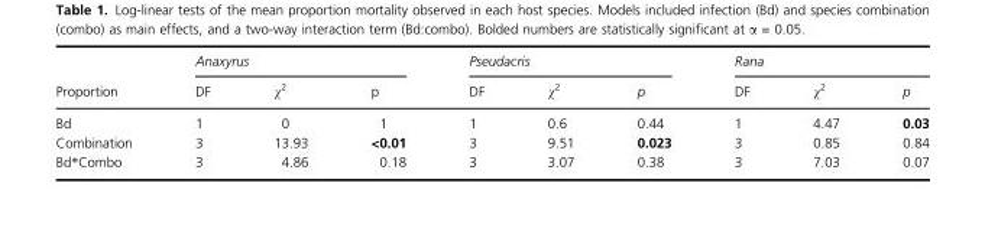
<table><thead><tr><td rowspan="2">Proportion</td><td colspan="3">Anaxyrus</td><td colspan="3">Pseudacris</td><td colspan="3">Rana</td></tr><tr><td>DF</td><td>χ<sup>2</sup></td><td>p</td><td>DF</td><td>χ<sup>2</sup></td><td>p</td><td>DF</td><td>χ<sup>2</sup></td><td>p</td></tr></thead><tbody><tr><td>Bd</td><td>1</td><td>0</td><td>1</td><td>1</td><td>0.6</td><td>0.44</td><td>1</td><td>4.47</td><td>0.03</td></tr><tr><td>Combination</td><td>3</td><td>13.93</td><td>&lt;0.01</td><td>3</td><td>9.51</td><td>0.023</td><td>3</td><td>0.85</td><td>0.84</td></tr><tr><td>Bd*Combo</td><td>3</td><td>4.86</td><td>0.18</td><td>3</td><td>3.07</td><td>0.38</td><td>3</td><td>7.03</td><td>0.07</td></tr></tbody></table>